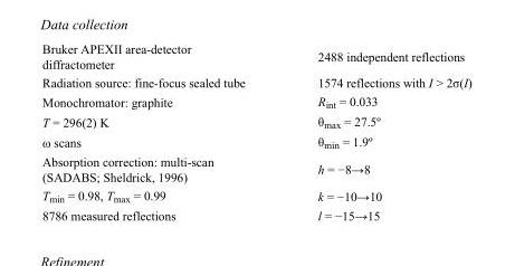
<table><tbody><tr><td>Bruker APEXII area-detector diffractometer</td><td>2488 independent reflections</td></tr><tr><td>Radiation source: fine-focus sealed tube</td><td>1574 reflections with I &gt; 2σ(I)</td></tr><tr><td>Monochromator: graphite</td><td>R<sub>int</sub> = 0.033</td></tr><tr><td>T = 296(2) K</td><td>θ<sub>max</sub> = 27.5º</td></tr><tr><td>ω scans</td><td>θ<sub>min</sub> = 1.9º</td></tr><tr><td>Absorption correction: multi-scan (SADABS; Sheldrick, 1996)</td><td>h = −8→8</td></tr><tr><td>T<sub>min</sub> = 0.98, T<sub>max</sub> = 0.99</td><td>k = −10→10</td></tr><tr><td>8786 measured reflections</td><td>l = −15→15</td></tr></tbody></table>